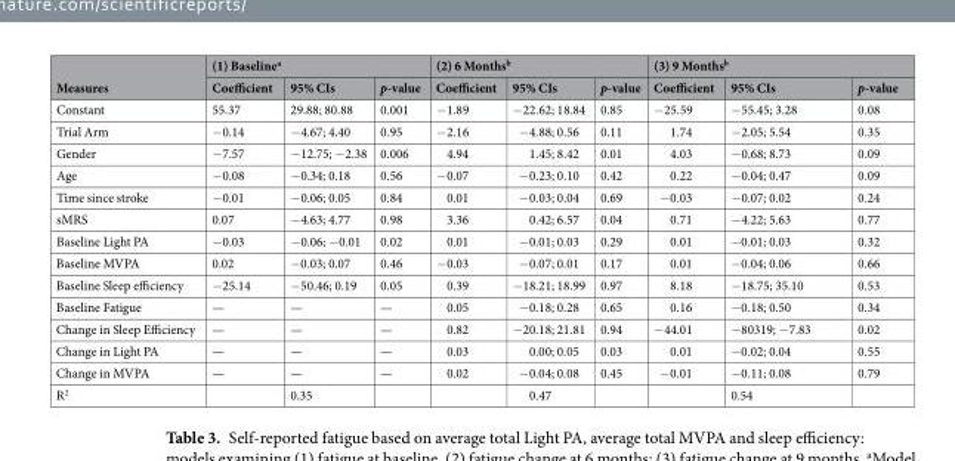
<table><thead><tr><td rowspan="2">Measures</td><td colspan="3">(1) Baseline<sup>a</sup></td><td colspan="3">(2) 6 Months<sup>b</sup></td><td colspan="3">(3) 9 Months<sup>b</sup></td></tr><tr><td>Coefficient</td><td>95% CIs</td><td>p-value</td><td>Coefficient</td><td>95% CIs</td><td>p-value</td><td>Coefficient</td><td>95% CIs</td><td>p-value</td></tr></thead><tbody><tr><td>Constant</td><td>55.37</td><td>29.88; 80.88</td><td>0.001</td><td>−1.89</td><td>−22.62; 18.84</td><td>0.85</td><td>−25.59</td><td>−55.45; 3.28</td><td>0.08</td></tr><tr><td>Trial Arm</td><td>−0.14</td><td>−4.67; 4.40</td><td>0.95</td><td>−2.16</td><td>−4.88; 0.56</td><td>0.11</td><td>1.74</td><td>−2.05; 5.54</td><td>0.35</td></tr><tr><td>Gender</td><td>−7.57</td><td>−12.75; −2.38</td><td>0.006</td><td>4.94</td><td>1.45; 8.42</td><td>0.01</td><td>4.03</td><td>−0.68; 8.73</td><td>0.09</td></tr><tr><td>Age</td><td>−0.08</td><td>−0.34; 0.18</td><td>0.56</td><td>−0.07</td><td>−0.23; 0.10</td><td>0.42</td><td>0.22</td><td>−0.04; 0.47</td><td>0.09</td></tr><tr><td>Time since stroke</td><td>−0.01</td><td>−0.06; 0.05</td><td>0.84</td><td>0.01</td><td>−0.03; 0.04</td><td>0.69</td><td>−0.03</td><td>−0.07; 0.02</td><td>0.24</td></tr><tr><td>sMRS</td><td>0.07</td><td>−4.63; 4.77</td><td>0.98</td><td>3.36</td><td>0.42; 6.57</td><td>0.04</td><td>0.71</td><td>−4.22; 5.63</td><td>0.77</td></tr><tr><td>Baseline Light PA</td><td>−0.03</td><td>−0.06; −0.01</td><td>0.02</td><td>0.01</td><td>−0.01; 0.03</td><td>0.29</td><td>0.01</td><td>−0.01; 0.03</td><td>0.32</td></tr><tr><td>Baseline MVPA</td><td>0.02</td><td>−0.03; 0.07</td><td>0.46</td><td>−0.03</td><td>−0.07; 0.01</td><td>0.17</td><td>0.01</td><td>−0.04; 0.06</td><td>0.66</td></tr><tr><td>Baseline Sleep efficiency</td><td>−25.14</td><td>−50.46; 0.19</td><td>0.05</td><td>0.39</td><td>−18.21; 18.99</td><td>0.97</td><td>8.18</td><td>−18.75; 35.10</td><td>0.53</td></tr><tr><td>Baseline Fatigue</td><td>—</td><td>—</td><td>—</td><td>0.05</td><td>−0.18; 0.28</td><td>0.65</td><td>0.16</td><td>−0.18; 0.50</td><td>0.34</td></tr><tr><td>Change in Sleep Efficiency</td><td>—</td><td>—</td><td>—</td><td>0.82</td><td>−20.18; 21.81</td><td>0.94</td><td>−44.01</td><td>−80319; −7.83</td><td>0.02</td></tr><tr><td>Change in Light PA</td><td>—</td><td>—</td><td>—</td><td>0.03</td><td>0.00; 0.05</td><td>0.03</td><td>0.01</td><td>−0.02; 0.04</td><td>0.55</td></tr><tr><td>Change in MVPA</td><td>—</td><td>—</td><td>—</td><td>0.02</td><td>−0.04; 0.08</td><td>0.45</td><td>−0.01</td><td>−0.11; 0.08</td><td>0.79</td></tr><tr><td>R<sup>2</sup></td><td></td><td>0.35</td><td></td><td></td><td>0.47</td><td></td><td></td><td>0.54</td><td></td></tr></tbody></table>